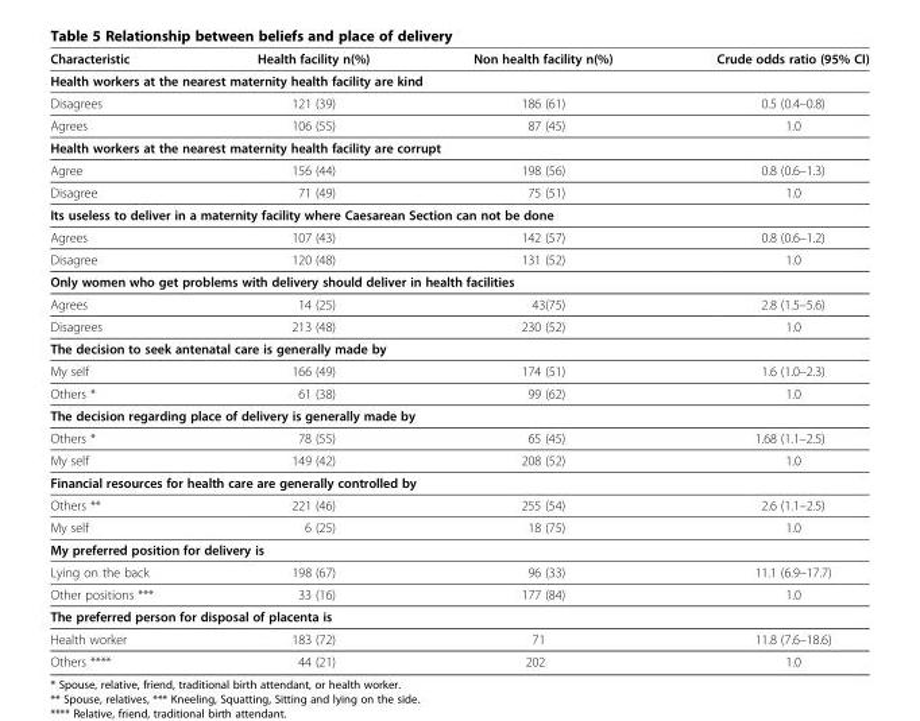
<table><thead><tr><td>Characteristic</td><td>Health facility n(%)</td><td>Non health facility n(%)</td><td>Crude odds ratio (95% CI)</td></tr></thead><tbody><tr><td colspan="4">Health workers at the nearest maternity health facility are kind</td></tr><tr><td>Disagrees</td><td>121 (39)</td><td>186 (61)</td><td>0.5 (0.4–0.8)</td></tr><tr><td>Agrees</td><td>106 (55)</td><td>87 (45)</td><td>1.0</td></tr><tr><td colspan="4">Health workers at the nearest maternity health facility are corrupt</td></tr><tr><td>Agree</td><td>156 (44)</td><td>198 (56)</td><td>0.8 (0.6–1.3)</td></tr><tr><td>Disagree</td><td>71 (49)</td><td>75 (51)</td><td>1.0</td></tr><tr><td colspan="4">Its useless to deliver in a maternity facility where Caesarean Section can not be done</td></tr><tr><td>Agrees</td><td>107 (43)</td><td>142 (57)</td><td>0.8 (0.6–1.2)</td></tr><tr><td>Disagree</td><td>120 (48)</td><td>131 (52)</td><td>1.0</td></tr><tr><td colspan="4">Only women who get problems with delivery should deliver in health facilities</td></tr><tr><td>Agrees</td><td>14 (25)</td><td>43(75)</td><td>2.8 (1.5–5.6)</td></tr><tr><td>Disagrees</td><td>213 (48)</td><td>230 (52)</td><td>1.0</td></tr><tr><td colspan="4">The decision to seek antenatal care is generally made by</td></tr><tr><td>My self</td><td>166 (49)</td><td>174 (51)</td><td>1.6 (1.0–2.3)</td></tr><tr><td>Others *</td><td>61 (38)</td><td>99 (62)</td><td>1.0</td></tr><tr><td colspan="4">The decision regarding place of delivery is generally made by</td></tr><tr><td>Others *</td><td>78 (55)</td><td>65 (45)</td><td>1.68 (1.1–2.5)</td></tr><tr><td>My self</td><td>149 (42)</td><td>208 (52)</td><td>1.0</td></tr><tr><td colspan="4">Financial resources for health care are generally controlled by</td></tr><tr><td>Others **</td><td>221 (46)</td><td>255 (54)</td><td>2.6 (1.1–2.5)</td></tr><tr><td>My self</td><td>6 (25)</td><td>18 (75)</td><td>1.0</td></tr><tr><td colspan="4">My preferred position for delivery is</td></tr><tr><td>Lying on the back</td><td>198 (67)</td><td>96 (33)</td><td>11.1 (6.9–17.7)</td></tr><tr><td>Other positions ***</td><td>33 (16)</td><td>177 (84)</td><td>1.0</td></tr><tr><td colspan="4">The preferred person for disposal of placenta is</td></tr><tr><td>Health worker</td><td>183 (72)</td><td>71</td><td>11.8 (7.6–18.6)</td></tr><tr><td>Others ****</td><td>44 (21)</td><td>202</td><td>1.0</td></tr></tbody></table>